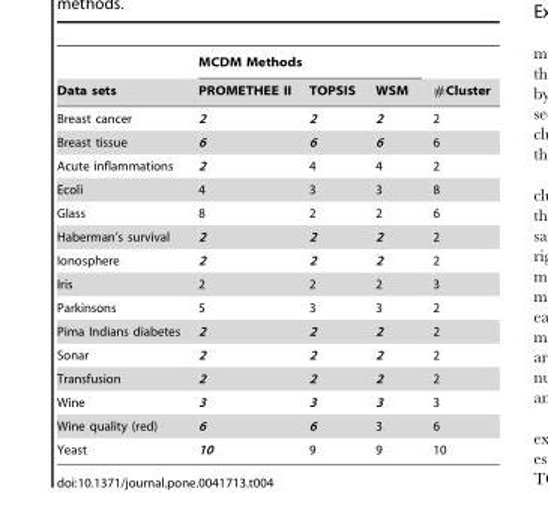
<table><thead><tr><td rowspan="2">Data sets</td><td colspan="3">MCDM Methods</td><td rowspan="2">#Cluster</td></tr><tr><td>PROMETHEE II</td><td>TOPSIS</td><td>WSM</td></tr></thead><tbody><tr><td>Breast cancer</td><td>2</td><td>2</td><td>2</td><td>2</td></tr><tr><td>Breast tissue</td><td>6</td><td>6</td><td>6</td><td>6</td></tr><tr><td>Acute inflammations</td><td>2</td><td>4</td><td>4</td><td>2</td></tr><tr><td>Ecoli</td><td>4</td><td>3</td><td>3</td><td>8</td></tr><tr><td>Glass</td><td>8</td><td>2</td><td>2</td><td>6</td></tr><tr><td>Haberman’s survival</td><td>2</td><td>2</td><td>2</td><td>2</td></tr><tr><td>Ionosphere</td><td>2</td><td>2</td><td>2</td><td>2</td></tr><tr><td>Iris</td><td>2</td><td>2</td><td>2</td><td>3</td></tr><tr><td>Parkinsons</td><td>5</td><td>3</td><td>3</td><td>2</td></tr><tr><td>Pima Indians diabetes</td><td>2</td><td>2</td><td>2</td><td>2</td></tr><tr><td>Sonar</td><td>2</td><td>2</td><td>2</td><td>2</td></tr><tr><td>Transfusion</td><td>2</td><td>2</td><td>2</td><td>2</td></tr><tr><td>Wine</td><td>3</td><td>3</td><td>3</td><td>3</td></tr><tr><td>Wine quality (red)</td><td>6</td><td>6</td><td>3</td><td>6</td></tr><tr><td>Yeast</td><td>10</td><td>9</td><td>9</td><td>10</td></tr></tbody></table>